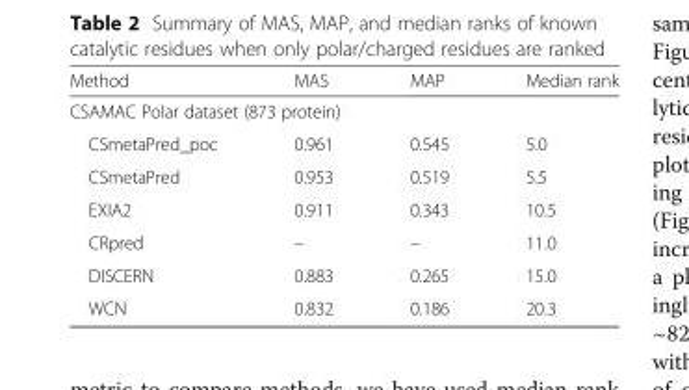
<table><thead><tr><td>Method</td><td>MAS</td><td>MAP</td><td>Median rank</td></tr></thead><tbody><tr><td colspan="4">CSAMAC Polar dataset (873 protein)</td></tr><tr><td>CSmetaPred_poc</td><td>0.961</td><td>0.545</td><td>5.0</td></tr><tr><td>CSmetaPred</td><td>0.953</td><td>0.519</td><td>5.5</td></tr><tr><td>EXIA2</td><td>0.911</td><td>0.343</td><td>10.5</td></tr><tr><td>CRpred</td><td>–</td><td>–</td><td>11.0</td></tr><tr><td>DISCERN</td><td>0.883</td><td>0.265</td><td>15.0</td></tr><tr><td>WCN</td><td>0.832</td><td>0.186</td><td>20.3</td></tr></tbody></table>